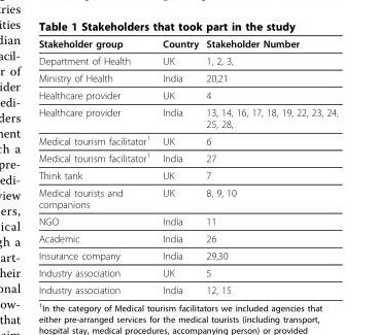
<table><thead><tr><td>Stakeholder group</td><td>Country</td><td>Stakeholder Number</td></tr></thead><tbody><tr><td>Department of Health</td><td>UK</td><td>1, 2, 3,</td></tr><tr><td>Ministry of Health</td><td>India</td><td>20,21</td></tr><tr><td>Healthcare provider</td><td>UK</td><td>4</td></tr><tr><td>Healthcare provider</td><td>India</td><td>13, 14, 16, 17, 18, 19, 22, 23, 24, 25, 28,</td></tr><tr><td>Medical tourism facilitator1</td><td>UK</td><td>6</td></tr><tr><td>Medical tourism facilitator1</td><td>India</td><td>27</td></tr><tr><td>Think tank</td><td>UK</td><td>7</td></tr><tr><td>Medical tourists and companions</td><td>UK</td><td>8, 9, 10</td></tr><tr><td>NGO</td><td>India</td><td>11</td></tr><tr><td>Academic</td><td>India</td><td>26</td></tr><tr><td>Insurance company</td><td>India</td><td>29,30</td></tr><tr><td>Industry association</td><td>UK</td><td>5</td></tr><tr><td>Industry association</td><td>India</td><td>12, 15</td></tr></tbody></table>